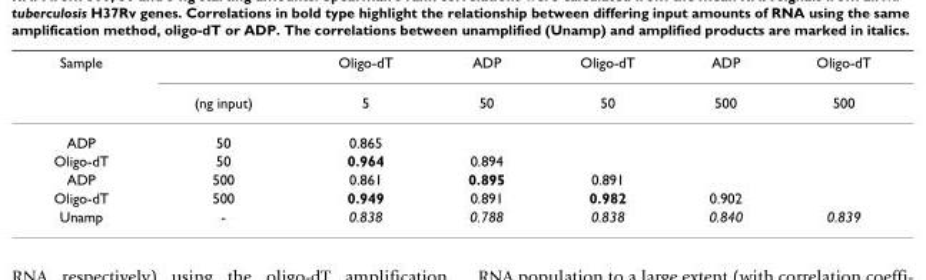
<table><thead><tr><td rowspan="2">Sample</td><td rowspan="2">(ng input)</td><td rowspan="2">Oligo-dT 5</td><td rowspan="2">ADP 50</td><td rowspan="2">Oligo-dT 50</td><td rowspan="2">ADP 500</td><td rowspan="2">Oligo-dT 500</td></tr><tr></tr></thead><tbody><tr><td>ADP</td><td>50</td><td>0.865</td><td></td><td></td><td></td><td></td></tr><tr><td>Oligo-dT</td><td>50</td><td>0.964</td><td>0.894</td><td></td><td></td><td></td></tr><tr><td>ADP</td><td>500</td><td>0.861</td><td>0.895</td><td>0.891</td><td></td><td></td></tr><tr><td>Oligo-dT</td><td>500</td><td>0.949</td><td>0.891</td><td>0.982</td><td>0.902</td><td></td></tr><tr><td>Unamp</td><td>-</td><td>0.838</td><td>0.788</td><td>0.838</td><td>0.840</td><td>0.839</td></tr></tbody></table>